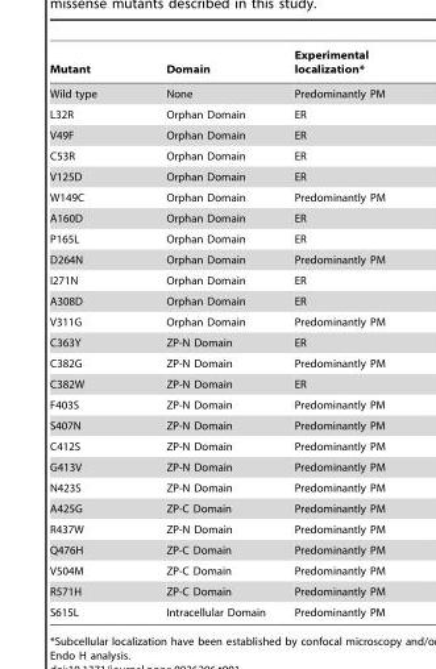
<table><thead><tr><td>Mutant</td><td>Domain</td><td>Experimental localization*</td></tr></thead><tbody><tr><td>Wild type</td><td>None</td><td>Predominantly PM</td></tr><tr><td>L32R</td><td>Orphan Domain</td><td>ER</td></tr><tr><td>V49F</td><td>Orphan Domain</td><td>ER</td></tr><tr><td>C53R</td><td>Orphan Domain</td><td>ER</td></tr><tr><td>V125D</td><td>Orphan Domain</td><td>ER</td></tr><tr><td>W149C</td><td>Orphan Domain</td><td>Predominantly PM</td></tr><tr><td>A160D</td><td>Orphan Domain</td><td>ER</td></tr><tr><td>P165L</td><td>Orphan Domain</td><td>ER</td></tr><tr><td>D264N</td><td>Orphan Domain</td><td>Predominantly PM</td></tr><tr><td>I271N</td><td>Orphan Domain</td><td>ER</td></tr><tr><td>A308D</td><td>Orphan Domain</td><td>ER</td></tr><tr><td>V311G</td><td>Orphan Domain</td><td>Predominantly PM</td></tr><tr><td>C363Y</td><td>ZP-N Domain</td><td>ER</td></tr><tr><td>C382G</td><td>ZP-N Domain</td><td>Predominantly PM</td></tr><tr><td>C382W</td><td>ZP-N Domain</td><td>ER</td></tr><tr><td>F403S</td><td>ZP-N Domain</td><td>Predominantly PM</td></tr><tr><td>S407N</td><td>ZP-N Domain</td><td>Predominantly PM</td></tr><tr><td>C412S</td><td>ZP-N Domain</td><td>Predominantly PM</td></tr><tr><td>G413V</td><td>ZP-N Domain</td><td>Predominantly PM</td></tr><tr><td>N423S</td><td>ZP-N Domain</td><td>Predominantly PM</td></tr><tr><td>A425G</td><td>ZP-C Domain</td><td>Predominantly PM</td></tr><tr><td>R437W</td><td>ZP-N Domain</td><td>Predominantly PM</td></tr><tr><td>Q476H</td><td>ZP-C Domain</td><td>Predominantly PM</td></tr><tr><td>V504M</td><td>ZP-C Domain</td><td>Predominantly PM</td></tr><tr><td>R571H</td><td>ZP-C Domain</td><td>Predominantly PM</td></tr><tr><td>S615L</td><td>Intracellular Domain</td><td>Predominantly PM</td></tr></tbody></table>